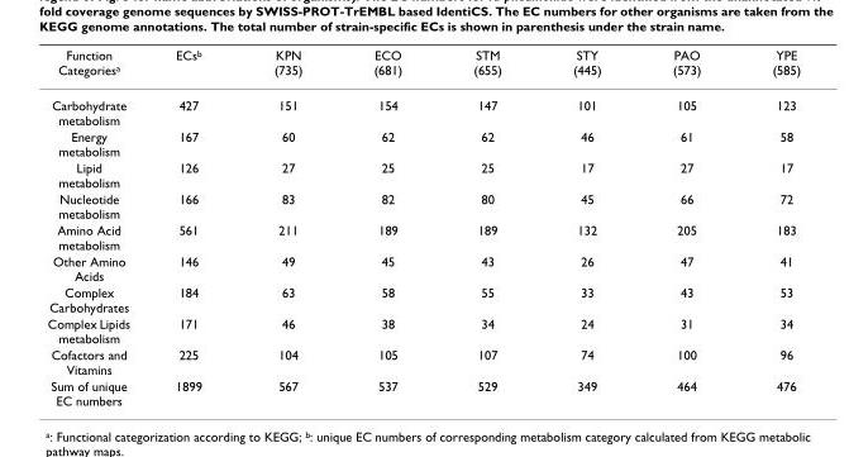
<table><thead><tr><td>Function Categoriesa</td><td>ECsb</td><td>KPN (735)</td><td>ECO (681)</td><td>STM (655)</td><td>STY (445)</td><td>PAO (573)</td><td>YPE (585)</td></tr></thead><tbody><tr><td>Carbohydrate metabolism</td><td>427</td><td>151</td><td>154</td><td>147</td><td>101</td><td>105</td><td>123</td></tr><tr><td>Energy metabolism</td><td>167</td><td>60</td><td>62</td><td>62</td><td>46</td><td>61</td><td>58</td></tr><tr><td>Lipid metabolism</td><td>126</td><td>27</td><td>25</td><td>25</td><td>17</td><td>27</td><td>17</td></tr><tr><td>Nucleotide metabolism</td><td>166</td><td>83</td><td>82</td><td>80</td><td>45</td><td>66</td><td>72</td></tr><tr><td>Amino Acid metabolism</td><td>561</td><td>211</td><td>189</td><td>189</td><td>132</td><td>205</td><td>183</td></tr><tr><td>Other Amino Acids</td><td>146</td><td>49</td><td>45</td><td>43</td><td>26</td><td>47</td><td>41</td></tr><tr><td>Complex Carbohydrates</td><td>184</td><td>63</td><td>58</td><td>55</td><td>33</td><td>43</td><td>53</td></tr><tr><td>Complex Lipids metabolism</td><td>171</td><td>46</td><td>38</td><td>34</td><td>24</td><td>31</td><td>34</td></tr><tr><td>Cofactors and Vitamins</td><td>225</td><td>104</td><td>105</td><td>107</td><td>74</td><td>100</td><td>96</td></tr><tr><td>Sum of unique EC numbers</td><td>1899</td><td>567</td><td>537</td><td>529</td><td>349</td><td>464</td><td>476</td></tr></tbody></table>